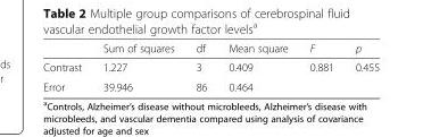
<table><thead><tr><td></td><td>Sum of squares</td><td>df</td><td>Mean square</td><td>F</td><td>p</td></tr></thead><tbody><tr><td>Contrast</td><td>1.227</td><td>3</td><td>0.409</td><td>0.881</td><td>0.455</td></tr><tr><td>Error</td><td>39.946</td><td>86</td><td>0.464</td><td></td><td></td></tr></tbody></table>